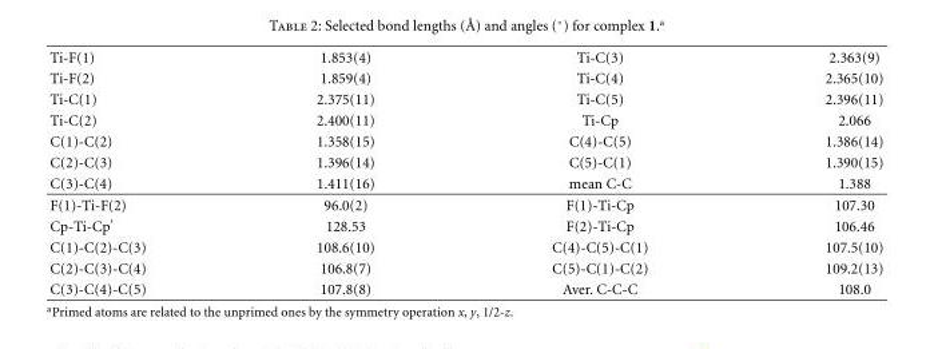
<table><tbody><tr><td>Ti-F(1)</td><td>1.853(4)</td><td>Ti-C(3)</td><td>2.363(9)</td></tr><tr><td>Ti-F(2)</td><td>1.859(4)</td><td>Ti-C(4)</td><td>2.365(10)</td></tr><tr><td>Ti-C(1)</td><td>2.375(11)</td><td>Ti-C(5)</td><td>2.396(11)</td></tr><tr><td>Ti-C(2)</td><td>2.400(11)</td><td>Ti-Cp</td><td>2.066</td></tr><tr><td>C(1)-C(2)</td><td>1.358(15)</td><td>C(4)-C(5)</td><td>1.386(14)</td></tr><tr><td>C(2)-C(3)</td><td>1.396(14)</td><td>C(5)-C(1)</td><td>1.390(15)</td></tr><tr><td>C(3)-C(4)</td><td>1.411(16)</td><td>mean C-C</td><td>1.388</td></tr><tr><td>F(1)-Ti-F(2)</td><td>96.0(2)</td><td>F(1)-Ti-Cp</td><td>107.30</td></tr><tr><td>Cp-Ti-Cp′</td><td>128.53</td><td>F(2)-Ti-Cp</td><td>106.46</td></tr><tr><td>C(1)-C(2)-C(3)</td><td>108.6(10)</td><td>C(4)-C(5)-C(1)</td><td>107.5(10)</td></tr><tr><td>C(2)-C(3)-C(4)</td><td>106.8(7)</td><td>C(5)-C(1)-C(2)</td><td>109.2(13)</td></tr><tr><td>C(3)-C(4)-C(5)</td><td>107.8(8)</td><td>Aver. C-C-C</td><td>108.0</td></tr></tbody></table>